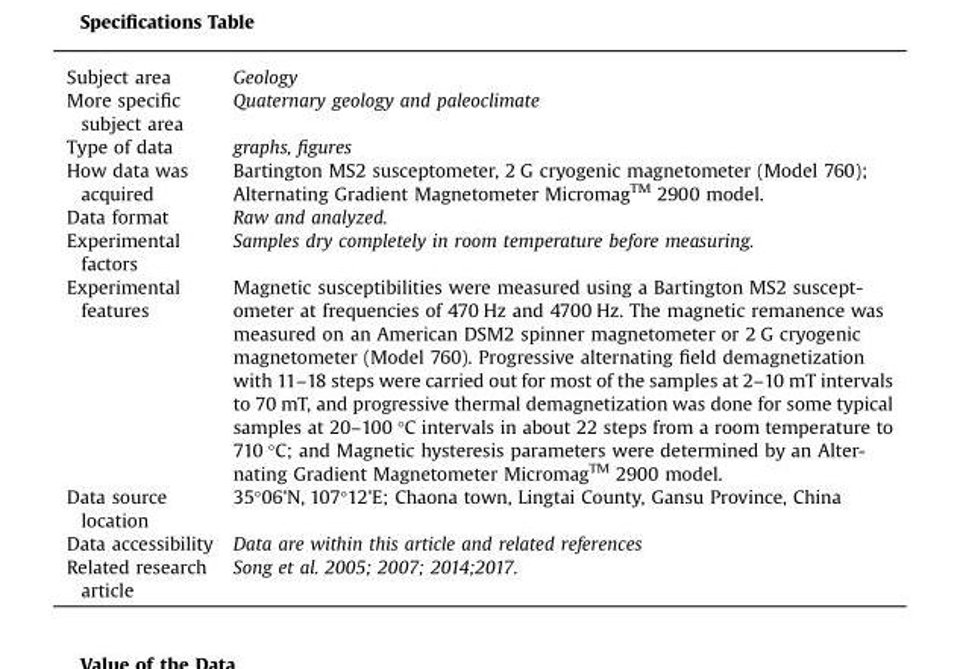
<table><thead><tr><td>Subject area</td><td>Geology</td></tr></thead><tbody><tr><td>More specific subject area</td><td>Quaternary geology and paleoclimate</td></tr><tr><td>Type of data</td><td>graphs, figures</td></tr><tr><td>How data was acquired</td><td>Bartington MS2 susceptometer, 2 G cryogenic magnetometer (Model 760); Alternating Gradient Magnetometer Micromag<sup>TM</sup> 2900 model.</td></tr><tr><td>Data format</td><td>Raw and analyzed.</td></tr><tr><td>Experimental factors</td><td>Samples dry completely in room temperature before measuring.</td></tr><tr><td>Experimental features</td><td>Magnetic susceptibilities were measured using a Bartington MS2 suscept- ometer at frequencies of 470 Hz and 4700 Hz. The magnetic remanence was measured on an American DSM2 spinner magnetometer or 2 G cryogenic magnetometer (Model 760). Progressive alternating field demagnetization with 11–18 steps were carried out for most of the samples at 2–10 mT intervals to 70 mT, and progressive thermal demagnetization was done for some typical samples at 20–100 °C intervals in about 22 steps from a room temperature to 710 °C; and Magnetic hysteresis parameters were determined by an Alter- nating Gradient Magnetometer MicromagTM 2900 model.</td></tr><tr><td>Data source location</td><td>35°06&#x27;N, 107°12&#x27;E; Chaona town, Lingtai County, Gansu Province, China</td></tr><tr><td>Data accessibility</td><td>Data are within this article and related references</td></tr><tr><td>Related research article</td><td>Song et al. 2005; 2007; 2014;2017.</td></tr></tbody></table>